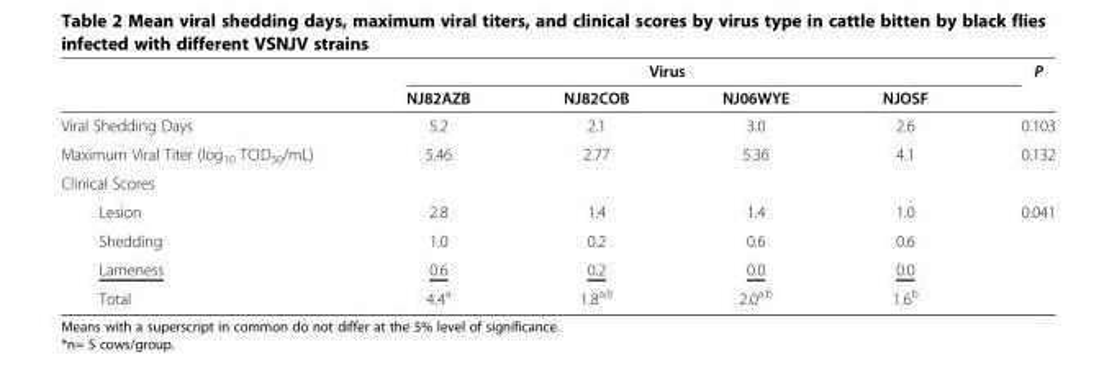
<table><thead><tr><td rowspan="2"></td><td colspan="4">Virus</td><td rowspan="2">P</td></tr><tr><td>NJ82AZB</td><td>NJ82COB</td><td>NJ06WYE</td><td>NJOSF</td></tr></thead><tbody><tr><td>Viral Shedding Days</td><td>5.2</td><td>2.1</td><td>3.0</td><td>2.6</td><td>0.103</td></tr><tr><td>Maximum Viral Titer (log<sub>10</sub> TCID<sub>50</sub>/mL)</td><td>5.46</td><td>2.77</td><td>5.36</td><td>4.1</td><td>0.132</td></tr><tr><td colspan="6">Clinical Scores</td></tr><tr><td>Lesion</td><td>2.8</td><td>1.4</td><td>1.4</td><td>1.0</td><td>0.041</td></tr><tr><td>Shedding</td><td>1.0</td><td>0.2</td><td>0.6</td><td>0.6</td><td></td></tr><tr><td>Lameness</td><td>0.6</td><td>0.2</td><td>0.0</td><td>0.0</td><td></td></tr><tr><td>Total</td><td>4.4<sup>a</sup></td><td>1.8<sup>a,b</sup></td><td>2.0<sup>a,b</sup></td><td>1.6<sup>b</sup></td><td></td></tr></tbody></table>